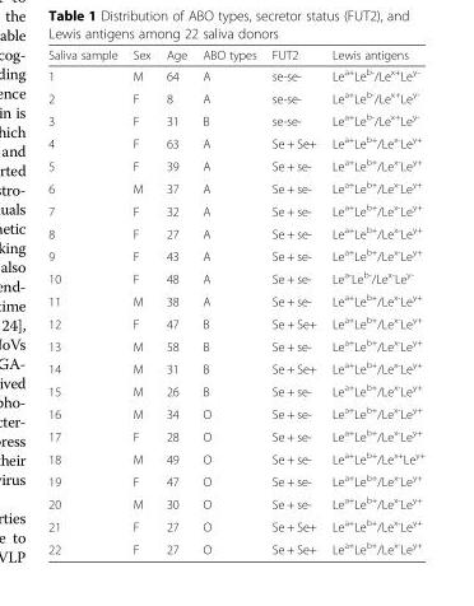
<table><thead><tr><td>Saliva sample</td><td>Sex</td><td>Age</td><td>ABO types</td><td>FUT2</td><td>Lewis antigens</td></tr></thead><tbody><tr><td>1</td><td>M</td><td>64</td><td>A</td><td>se-se-</td><td>Le<sup>a+</sup>Le<sup>b-</sup>/Le<sup>x+</sup>Le<sup>y-</sup></td></tr><tr><td>2</td><td>F</td><td>8</td><td>A</td><td>se-se-</td><td>Le<sup>a+</sup>Le<sup>b-</sup>/Le<sup>x+</sup>Le<sup>y-</sup></td></tr><tr><td>3</td><td>F</td><td>31</td><td>B</td><td>se-se-</td><td>Le<sup>a+</sup>Le<sup>b-</sup>/Le<sup>x+</sup>Le<sup>y-</sup></td></tr><tr><td>4</td><td>F</td><td>63</td><td>A</td><td>Se + Se+</td><td>Le<sup>a+</sup>Le<sup>b+</sup>/Le<sup>x-</sup>Le<sup>y+</sup></td></tr><tr><td>5</td><td>F</td><td>39</td><td>A</td><td>Se + se-</td><td>Le<sup>a+</sup>Le<sup>b+</sup>/Le<sup>x-</sup>Le<sup>y+</sup></td></tr><tr><td>6</td><td>M</td><td>37</td><td>A</td><td>Se + se-</td><td>Le<sup>a+</sup>Le<sup>b+</sup>/Le<sup>x-</sup>Le<sup>y+</sup></td></tr><tr><td>7</td><td>F</td><td>32</td><td>A</td><td>Se + se-</td><td>Le<sup>a+</sup>Le<sup>b+</sup>/Le<sup>x-</sup>Le<sup>y+</sup></td></tr><tr><td>8</td><td>F</td><td>27</td><td>A</td><td>Se + se-</td><td>Le<sup>a+</sup>Le<sup>b+</sup>/Le<sup>x-</sup>Le<sup>y+</sup></td></tr><tr><td>9</td><td>F</td><td>43</td><td>A</td><td>Se + se-</td><td>Le<sup>a+</sup>Le<sup>b+</sup>/Le<sup>x-</sup>Le<sup>y+</sup></td></tr><tr><td>10</td><td>F</td><td>48</td><td>A</td><td>Se + se-</td><td>Le<sup>a-</sup>Le<sup>b-</sup>/Le<sup>x-</sup>Le<sup>y-</sup></td></tr><tr><td>11</td><td>M</td><td>38</td><td>A</td><td>Se + se-</td><td>Le<sup>a+</sup>Le<sup>b+</sup>/Le<sup>x-</sup>Le<sup>y+</sup></td></tr><tr><td>12</td><td>F</td><td>47</td><td>B</td><td>Se + Se+</td><td>Le<sup>a+</sup>Le<sup>b+</sup>/Le<sup>x-</sup>Le<sup>y+</sup></td></tr><tr><td>13</td><td>M</td><td>58</td><td>B</td><td>Se + se-</td><td>Le<sup>a+</sup>Le<sup>b+</sup>/Le<sup>x-</sup>Le<sup>y+</sup></td></tr><tr><td>14</td><td>M</td><td>31</td><td>B</td><td>Se + Se+</td><td>Le<sup>a+</sup>Le<sup>b+</sup>/Le<sup>x-</sup>Le<sup>y+</sup></td></tr><tr><td>15</td><td>M</td><td>26</td><td>B</td><td>Se + se-</td><td>Le<sup>a+</sup>Le<sup>b+</sup>/Le<sup>x-</sup>Le<sup>y+</sup></td></tr><tr><td>16</td><td>M</td><td>34</td><td>O</td><td>Se + se-</td><td>Le<sup>a+</sup>Le<sup>b+</sup>/Le<sup>x-</sup>Le<sup>y+</sup></td></tr><tr><td>17</td><td>F</td><td>28</td><td>O</td><td>Se + se-</td><td>Le<sup>a+</sup>Le<sup>b+</sup>/Le<sup>x-</sup>Le<sup>y+</sup></td></tr><tr><td>18</td><td>M</td><td>49</td><td>O</td><td>Se + se-</td><td>Le<sup>a+</sup>Le<sup>b+</sup>/Le<sup>x+</sup>Le<sup>y+</sup></td></tr><tr><td>19</td><td>F</td><td>47</td><td>O</td><td>Se + se-</td><td>Le<sup>a+</sup>Le<sup>b+</sup>/Le<sup>x-</sup>Le<sup>y+</sup></td></tr><tr><td>20</td><td>M</td><td>30</td><td>O</td><td>Se + se-</td><td>Le<sup>a+</sup>Le<sup>b+</sup>/Le<sup>x-</sup>Le<sup>y+</sup></td></tr><tr><td>21</td><td>F</td><td>27</td><td>O</td><td>Se + Se+</td><td>Le<sup>a+</sup>Le<sup>b+</sup>/Le<sup>x-</sup>Le<sup>y+</sup></td></tr><tr><td>22</td><td>F</td><td>27</td><td>O</td><td>Se + Se+</td><td>Le<sup>a+</sup>Le<sup>b+</sup>/Le<sup>x-</sup>Le<sup>y+</sup></td></tr></tbody></table>